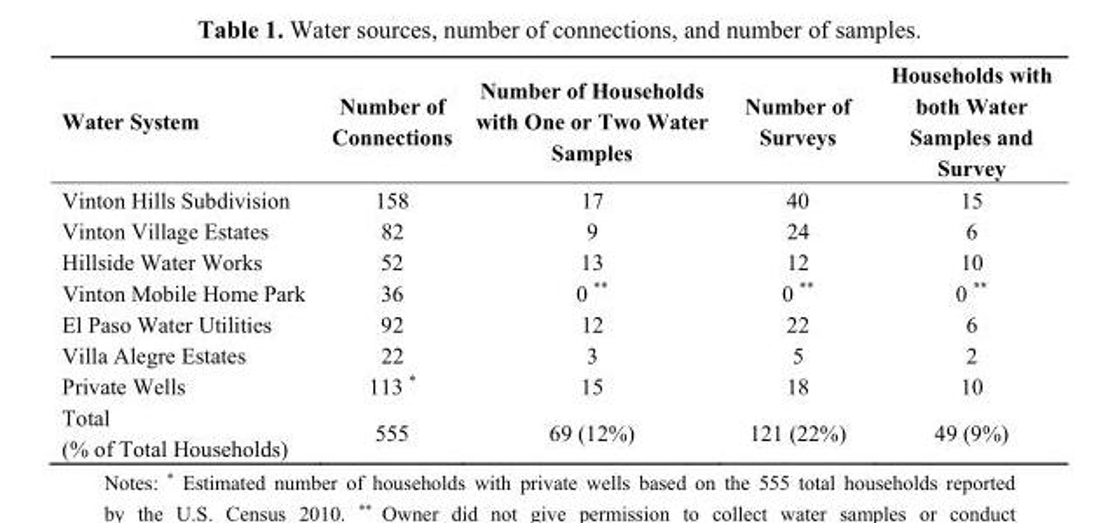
<table><thead><tr><td>Water System</td><td>Number of Connections</td><td>Number of Households with One or Two Water Samples</td><td>Number of Surveys</td><td>Households with both Water Samples and Survey</td></tr></thead><tbody><tr><td>Vinton Hills Subdivision</td><td>158</td><td>17</td><td>40</td><td>15</td></tr><tr><td>Vinton Village Estates</td><td>82</td><td>9</td><td>24</td><td>6</td></tr><tr><td>Hillside Water Works</td><td>52</td><td>13</td><td>12</td><td>10</td></tr><tr><td>Vinton Mobile Home Park</td><td>36</td><td>0 **</td><td>0 **</td><td>0 **</td></tr><tr><td>El Paso Water Utilities</td><td>92</td><td>12</td><td>22</td><td>6</td></tr><tr><td>Villa Alegre Estates</td><td>22</td><td>3</td><td>5</td><td>2</td></tr><tr><td>Private Wells</td><td>113 *</td><td>15</td><td>18</td><td>10</td></tr><tr><td>Total (% of Total Households)</td><td>555</td><td>69 (12%)</td><td>121 (22%)</td><td>49 (9%)</td></tr></tbody></table>